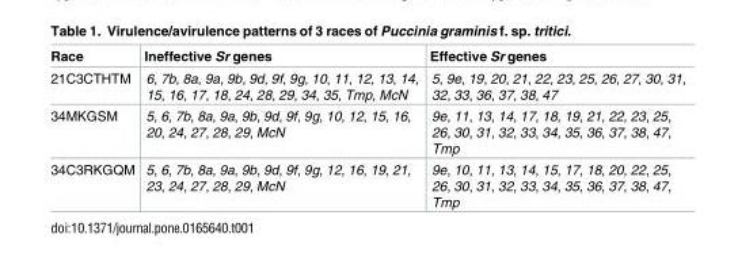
<table><thead><tr><td>Race</td><td>Ineffective Sr genes</td><td>Effective Sr genes</td></tr></thead><tbody><tr><td>21C3CTHTM</td><td>6, 7b, 8a, 9a, 9b, 9d, 9f, 9g, 10, 11, 12, 13, 14, 15, 16, 17, 18, 24, 28, 29, 34, 35, Tmp, McN</td><td>5, 9e, 19, 20, 21, 22, 23, 25, 26, 27, 30, 31, 32, 33, 36, 37, 38, 47</td></tr><tr><td>34MKGSM</td><td>5, 6, 7b, 8a, 9a, 9b, 9d, 9f, 9g, 10, 12, 15, 16, 20, 24, 27, 28, 29, McN</td><td>9e, 11, 13, 14, 17, 18, 19, 21, 22, 23, 25, 26, 30, 31, 32, 33, 34, 35, 36, 37, 38, 47, Tmp</td></tr><tr><td>34C3RKGQM</td><td>5, 6, 7b, 8a, 9a, 9b, 9d, 9f, 9g, 12, 16, 19, 21, 23, 24, 27, 28, 29, McN</td><td>9e, 10, 11, 13, 14, 15, 17, 18, 20, 22, 25, 26, 30, 31, 32, 33, 34, 35, 36, 37, 38, 47, Tmp</td></tr></tbody></table>